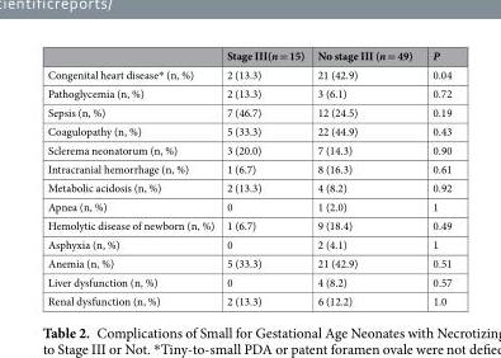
<table><thead><tr><td></td><td>Stage III(n = 15)</td><td>No stage III (n = 49)</td><td>P</td></tr></thead><tbody><tr><td>Congenital heart disease* (n, %)</td><td>2 (13.3)</td><td>21 (42.9)</td><td>0.04</td></tr><tr><td>Pathoglycemia (n, %)</td><td>2 (13.3)</td><td>3 (6.1)</td><td>0.72</td></tr><tr><td>Sepsis (n, %)</td><td>7 (46.7)</td><td>12 (24.5)</td><td>0.19</td></tr><tr><td>Coagulopathy (n, %)</td><td>5 (33.3)</td><td>22 (44.9)</td><td>0.43</td></tr><tr><td>Sclerema neonatorum (n, %)</td><td>3 (20.0)</td><td>7 (14.3)</td><td>0.90</td></tr><tr><td>Intracranial hemorrhage (n, %)</td><td>1 (6.7)</td><td>8 (16.3)</td><td>0.61</td></tr><tr><td>Metabolic acidosis (n, %)</td><td>2 (13.3)</td><td>4 (8.2)</td><td>0.92</td></tr><tr><td>Apnea (n, %)</td><td>0</td><td>1 (2.0)</td><td>1</td></tr><tr><td>Hemolytic disease of newborn (n, %)</td><td>1 (6.7)</td><td>9 (18.4)</td><td>0.49</td></tr><tr><td>Asphyxia (n, %)</td><td>0</td><td>2 (4.1)</td><td>1</td></tr><tr><td>Anemia (n, %)</td><td>5 (33.3)</td><td>21 (42.9)</td><td>0.51</td></tr><tr><td>Liver dysfunction (n, %)</td><td>0</td><td>4 (8.2)</td><td>0.57</td></tr><tr><td>Renal dysfunction (n, %)</td><td>2 (13.3)</td><td>6 (12.2)</td><td>1.0</td></tr></tbody></table>